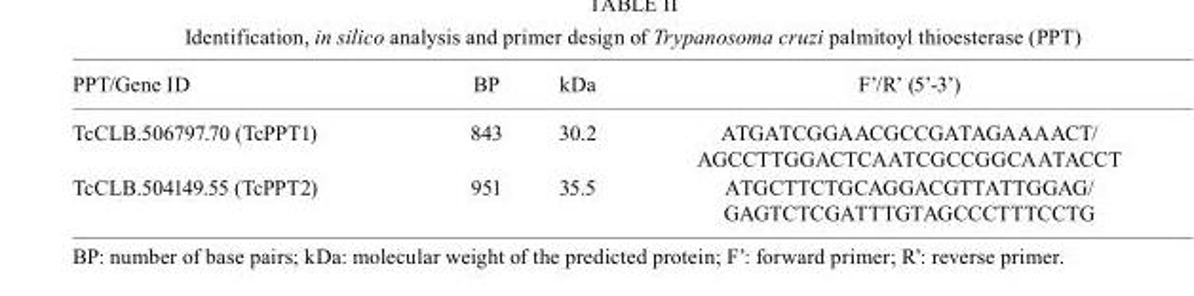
<table><thead><tr><td>PPT/Gene ID</td><td>BP</td><td>kDa</td><td>F’/R’ (5’-3’)</td></tr></thead><tbody><tr><td>TcCLB.506797.70 (TcPPT1)</td><td>843</td><td>30.2</td><td>ATGATCGGAACGCCGATAGAAAACT/ AGCCTTGGACTCAATCGCCGGCAATACCT</td></tr><tr><td>TcCLB.504149.55 (TcPPT2)</td><td>951</td><td>35.5</td><td>ATGCTTCTGCAGGACGTTATTGGAG/ GAGTCTCGATTTGTAGCCCTTTCCTG</td></tr></tbody></table>